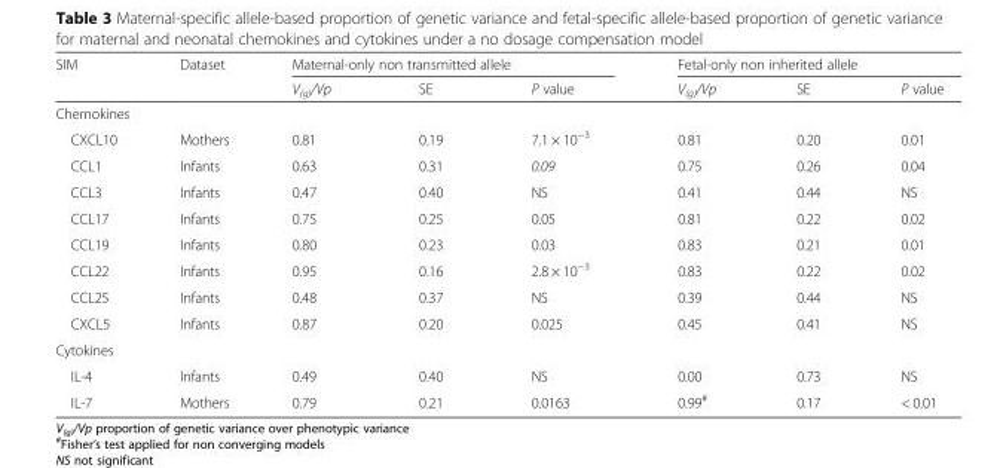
<table><thead><tr><td rowspan="2">SIM</td><td rowspan="2">Dataset</td><td colspan="3">Maternal-only non transmitted allele</td><td colspan="3">Fetal-only non inherited allele</td></tr><tr><td>V<sub>(g)</sub>/Vp</td><td>SE</td><td>P value</td><td>V<sub>(g)</sub>/Vp</td><td>SE</td><td>P value</td></tr></thead><tbody><tr><td colspan="8">Chemokines</td></tr><tr><td>CXCL10</td><td>Mothers</td><td>0.81</td><td>0.19</td><td>7.1 × 10<sup>−3</sup></td><td>0.81</td><td>0.20</td><td>0.01</td></tr><tr><td>CCL1</td><td>Infants</td><td>0.63</td><td>0.31</td><td>0.09</td><td>0.75</td><td>0.26</td><td>0.04</td></tr><tr><td>CCL3</td><td>Infants</td><td>0.47</td><td>0.40</td><td>NS</td><td>0.41</td><td>0.44</td><td>NS</td></tr><tr><td>CCL17</td><td>Infants</td><td>0.75</td><td>0.25</td><td>0.05</td><td>0.81</td><td>0.22</td><td>0.02</td></tr><tr><td>CCL19</td><td>Infants</td><td>0.80</td><td>0.23</td><td>0.03</td><td>0.83</td><td>0.21</td><td>0.01</td></tr><tr><td>CCL22</td><td>Infants</td><td>0.95</td><td>0.16</td><td>2.8 × 10<sup>−3</sup></td><td>0.83</td><td>0.22</td><td>0.02</td></tr><tr><td>CCL25</td><td>Infants</td><td>0.48</td><td>0.37</td><td>NS</td><td>0.39</td><td>0.44</td><td>NS</td></tr><tr><td>CXCL5</td><td>Infants</td><td>0.87</td><td>0.20</td><td>0.025</td><td>0.45</td><td>0.41</td><td>NS</td></tr><tr><td colspan="8">Cytokines</td></tr><tr><td>IL-4</td><td>Infants</td><td>0.49</td><td>0.40</td><td>NS</td><td>0.00</td><td>0.73</td><td>NS</td></tr><tr><td>IL-7</td><td>Mothers</td><td>0.79</td><td>0.21</td><td>0.0163</td><td>0.99<sup>#</sup></td><td>0.17</td><td>&lt; 0.01</td></tr></tbody></table>